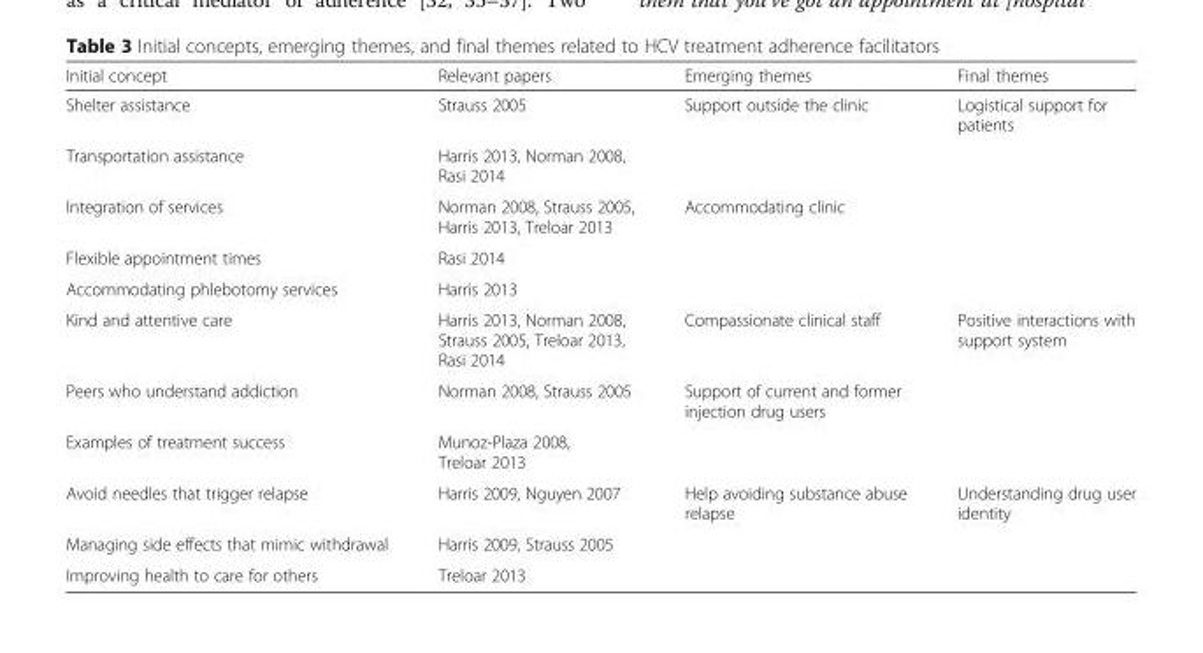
<table><thead><tr><td>Initial concept</td><td>Relevant papers</td><td>Emerging themes</td><td>Final themes</td></tr></thead><tbody><tr><td>Shelter assistance</td><td>Strauss 2005</td><td>Support outside the clinic</td><td>Logistical support for patients</td></tr><tr><td>Transportation assistance</td><td>Harris 2013, Norman 2008, Rasi 2014</td><td></td><td></td></tr><tr><td>Integration of services</td><td>Norman 2008, Strauss 2005, Harris 2013, Treloar 2013</td><td>Accommodating clinic</td><td></td></tr><tr><td>Flexible appointment times</td><td>Rasi 2014</td><td></td><td></td></tr><tr><td>Accommodating phlebotomy services</td><td>Harris 2013</td><td></td><td></td></tr><tr><td>Kind and attentive care</td><td>Harris 2013, Norman 2008, Strauss 2005, Treloar 2013, Rasi 2014</td><td>Compassionate clinical staff</td><td>Positive interactions with support system</td></tr><tr><td>Peers who understand addiction</td><td>Norman 2008, Strauss 2005</td><td>Support of current and former injection drug users</td><td></td></tr><tr><td>Examples of treatment success</td><td>Munoz-Plaza 2008, Treloar 2013</td><td></td><td></td></tr><tr><td>Avoid needles that trigger relapse</td><td>Harris 2009, Nguyen 2007</td><td>Help avoiding substance abuse relapse</td><td>Understanding drug user identity</td></tr><tr><td>Managing side effects that mimic withdrawal</td><td>Harris 2009, Strauss 2005</td><td></td><td></td></tr><tr><td>Improving health to care for others</td><td>Treloar 2013</td><td></td><td></td></tr></tbody></table>